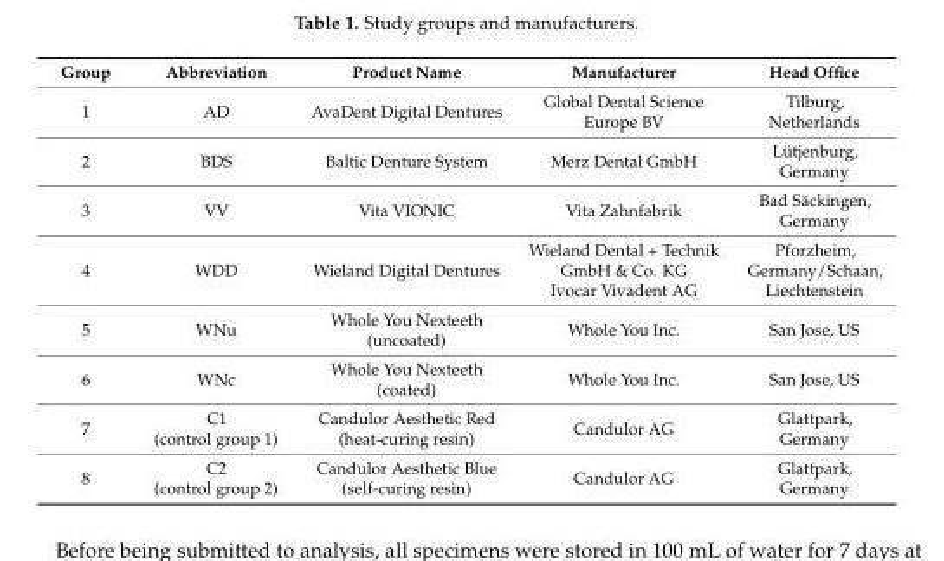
<table><thead><tr><td>Group</td><td>Abbreviation</td><td>Product Name</td><td>Manufacturer</td><td>Head Office</td></tr></thead><tbody><tr><td>1</td><td>AD</td><td>AvaDent Digital Dentures</td><td>Global Dental Science Europe BV</td><td>Tilburg, Netherlands</td></tr><tr><td>2</td><td>BDS</td><td>Baltic Denture System</td><td>Merz Dental GmbH</td><td>Lütjenburg, Germany</td></tr><tr><td>3</td><td>VV</td><td>Vita VIONIC</td><td>Vita Zahnfabrik</td><td>Bad Säckingen, Germany</td></tr><tr><td>4</td><td>WDD</td><td>Wieland Digital Dentures</td><td>Wieland Dental + Technik GmbH &amp; Co. KG Ivocar Vivadent AG</td><td>Pforzheim, Germany/Schaan, Liechtenstein</td></tr><tr><td>5</td><td>WNu</td><td>Whole You Nexteeth (uncoated)</td><td>Whole You Inc.</td><td>San Jose, US</td></tr><tr><td>6</td><td>WNc</td><td>Whole You Nexteeth (coated)</td><td>Whole You Inc.</td><td>San Jose, US</td></tr><tr><td>7</td><td>C1 (control group 1)</td><td>Candulor Aesthetic Red (heat-curing resin)</td><td>Candulor AG</td><td>Glattpark, Germany</td></tr><tr><td>8</td><td>C2 (control group 2)</td><td>Candulor Aesthetic Blue (self-curing resin)</td><td>Candulor AG</td><td>Glattpark, Germany</td></tr></tbody></table>